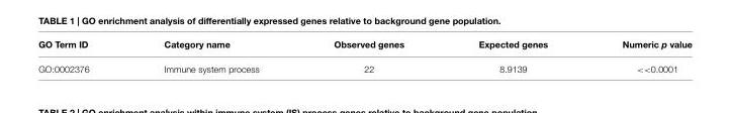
<table><thead><tr><td>GO Term ID</td><td>Category name</td><td>Observed genes</td><td>Expected genes</td><td>Numeric p value</td></tr></thead><tbody><tr><td>GO:0002376</td><td>Immune system process</td><td>22</td><td>8.9139</td><td>&lt;&lt;0.0001</td></tr></tbody></table>